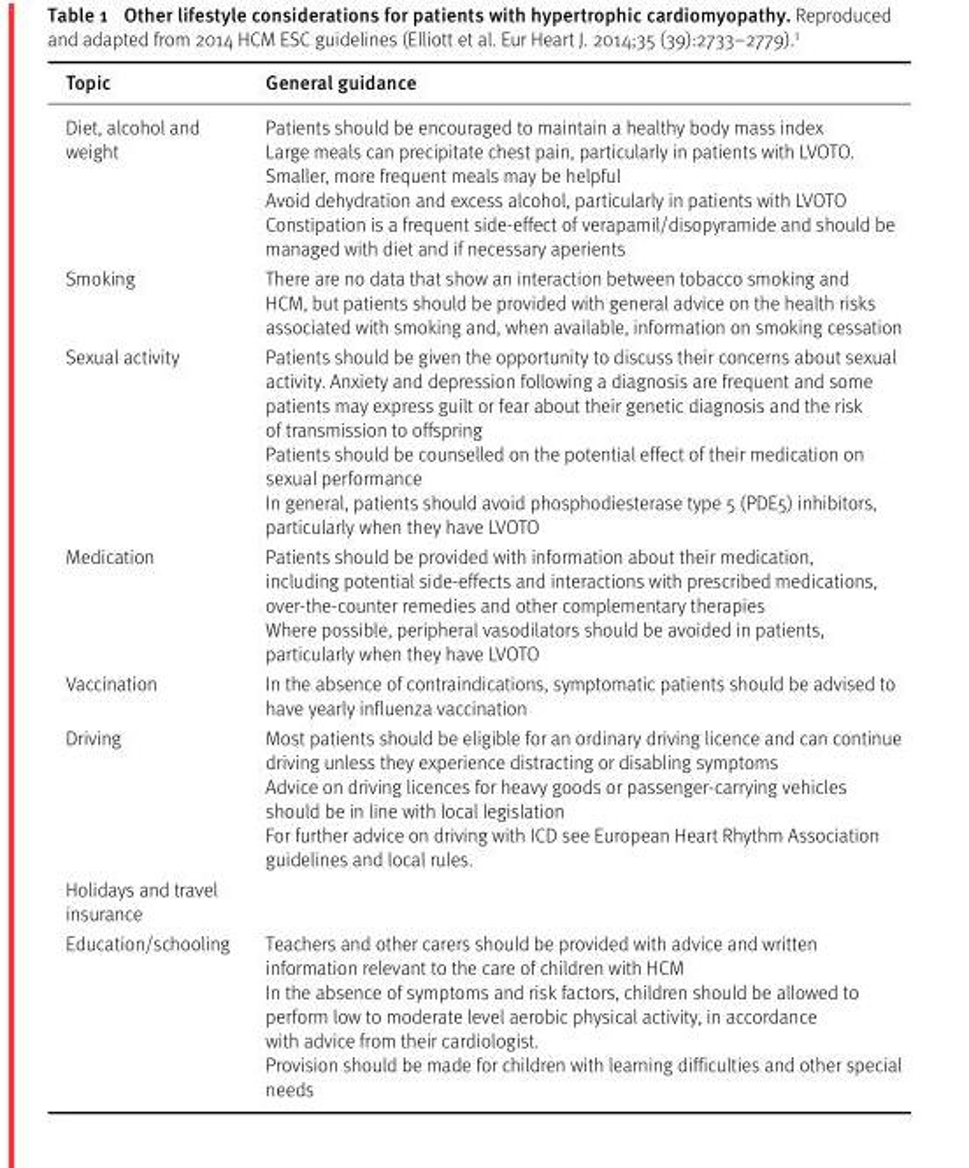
<table><thead><tr><td>Topic</td><td>General guidance</td></tr></thead><tbody><tr><td>Diet, alcohol and weight</td><td>Patients should be encouraged to maintain a healthy body mass index Large meals can precipitate chest pain, particularly in patients with LVOTO. Smaller, more frequent meals may be helpful Avoid dehydration and excess alcohol, particularly in patients with LVOTO Constipation is a frequent side-effect of verapamil/disopyramide and should be managed with diet and if necessary aperients</td></tr><tr><td>Smoking</td><td>There are no data that show an interaction between tobacco smoking and HCM, but patients should be provided with general advice on the health risks associated with smoking and, when available, information on smoking cessation</td></tr><tr><td>Sexual activity</td><td>Patients should be given the opportunity to discuss their concerns about sexual activity. Anxiety and depression following a diagnosis are frequent and some patients may express guilt or fear about their genetic diagnosis and the risk of transmission to offspring Patients should be counselled on the potential effect of their medication on sexual performance In general, patients should avoid phosphodiesterase type 5 (PDE5) inhibitors, particularly when they have LVOTO</td></tr><tr><td>Medication</td><td>Patients should be provided with information about their medication, including potential side-effects and interactions with prescribed medications, over-the-counter remedies and other complementary therapies Where possible, peripheral vasodilators should be avoided in patients, particularly when they have LVOTO</td></tr><tr><td>Vaccination</td><td>In the absence of contraindications, symptomatic patients should be advised to have yearly influenza vaccination</td></tr><tr><td>Driving</td><td>Most patients should be eligible for an ordinary driving licence and can continue driving unless they experience distracting or disabling symptoms Advice on driving licences for heavy goods or passenger-carrying vehicles should be in line with local legislation For further advice on driving with ICD see European Heart Rhythm Association guidelines and local rules.</td></tr><tr><td colspan="2">Holidays and travel insurance</td></tr><tr><td>Education/schooling</td><td>Teachers and other carers should be provided with advice and written information relevant to the care of children with HCM In the absence of symptoms and risk factors, children should be allowed to perform low to moderate level aerobic physical activity, in accordance with advice from their cardiologist. Provision should be made for children with learning difficulties and other special needs</td></tr></tbody></table>